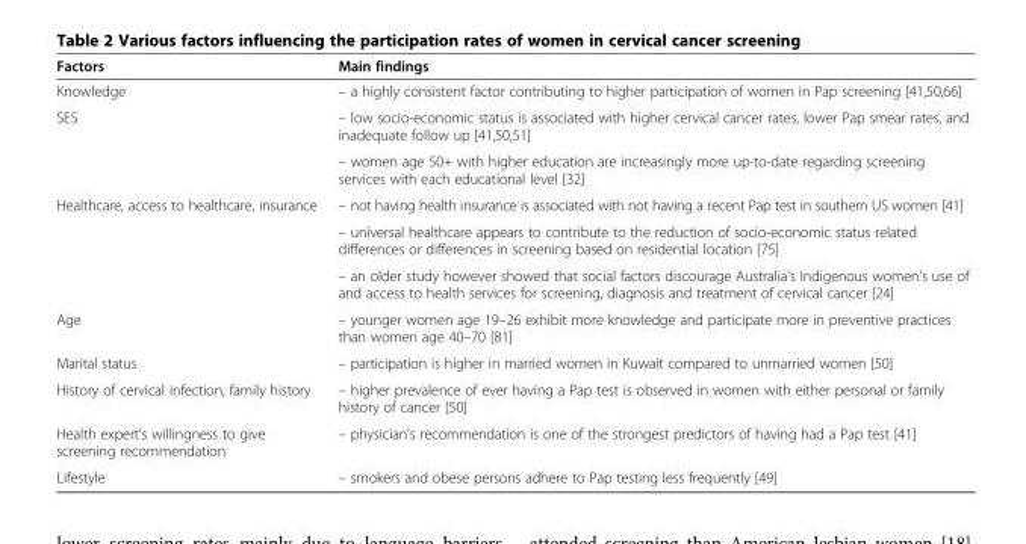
<table><thead><tr><td>Factors</td><td>Main findings</td></tr></thead><tbody><tr><td>Knowledge</td><td>– a highly consistent factor contributing to higher participation of women in Pap screening [41,50,66]</td></tr><tr><td rowspan="2">SES</td><td>– low socio-economic status is associated with higher cervical cancer rates, lower Pap smear rates, and inadequate follow up [41,50,51]</td></tr><tr><td>– women age 50+ with higher education are increasingly more up-to-date regarding screening services with each educational level [32]</td></tr><tr><td rowspan="3">Healthcare, access to healthcare, insurance</td><td>– not having health insurance is associated with not having a recent Pap test in southern US women [41]</td></tr><tr><td>– universal healthcare appears to contribute to the reduction of socio-economic status related differences or differences in screening based on residential location [75]</td></tr><tr><td>– an older study however showed that social factors discourage Australia&#x27;s Indigenous women&#x27;s use of and access to health services for screening, diagnosis and treatment of cervical cancer [24]</td></tr><tr><td>Age</td><td>– younger women age 19–26 exhibit more knowledge and participate more in preventive practices than women age 40–70 [81]</td></tr><tr><td>Marital status</td><td>– participation is higher in married women in Kuwait compared to unmarried women [50]</td></tr><tr><td>History of cervical infection, family history</td><td>– higher prevalence of ever having a Pap test is observed in women with either personal or family history of cancer [50]</td></tr><tr><td>Health expert’s willingness to give screening recommendation</td><td>– physician&#x27;s recommendation is one of the strongest predictors of having had a Pap test [41]</td></tr><tr><td>Lifestyle</td><td>– smokers and obese persons adhere to Pap testing less frequently [49]</td></tr></tbody></table>